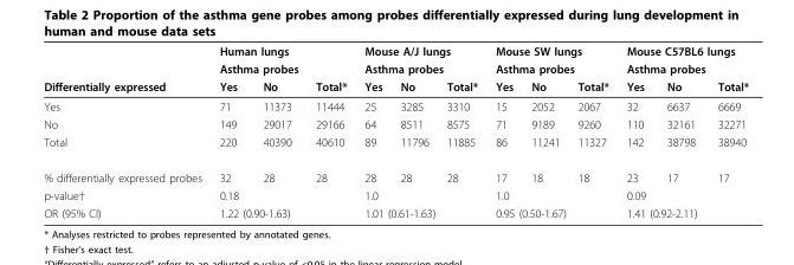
<table><thead><tr><td rowspan="3">Differentially expressed</td><td colspan="2">Human lungs</td><td></td><td rowspan="2" colspan="3">Mouse A/J lungs Asthma probes</td><td rowspan="2" colspan="3">Mouse SW lungs Asthma probes</td><td rowspan="2" colspan="3">Mouse C57BL6 lungs Asthma probes</td></tr><tr><td colspan="3">Asthma probes</td></tr><tr><td>Yes</td><td>No</td><td>Total*</td><td>Yes</td><td>No</td><td>Total*</td><td>Yes</td><td>No</td><td>Total*</td><td>Yes</td><td>No</td><td>Total*</td></tr></thead><tbody><tr><td>Yes</td><td>71</td><td>11373</td><td>11444</td><td>25</td><td>3285</td><td>3310</td><td>15</td><td>2052</td><td>2067</td><td>32</td><td>6637</td><td>6669</td></tr><tr><td>No</td><td>149</td><td>29017</td><td>29166</td><td>64</td><td>8511</td><td>8575</td><td>71</td><td>9189</td><td>9260</td><td>110</td><td>32161</td><td>32271</td></tr><tr><td>Total</td><td>220</td><td>40390</td><td>40610</td><td>89</td><td>11796</td><td>11885</td><td>86</td><td>11241</td><td>11327</td><td>142</td><td>38798</td><td>38940</td></tr><tr><td>% differentially expressed probes</td><td>32</td><td>28</td><td>28</td><td>28</td><td>28</td><td>28</td><td>17</td><td>18</td><td>18</td><td>23</td><td>17</td><td>17</td></tr><tr><td>p-value†</td><td>0.18</td><td></td><td></td><td>1.0</td><td></td><td></td><td>1.0</td><td></td><td></td><td colspan="2">0.09</td><td></td></tr><tr><td>OR (95% CI)</td><td colspan="3">1.22 (0.90-1.63)</td><td colspan="3">1.01 (0.61-1.63)</td><td colspan="3">0.95 (0.50-1.67)</td><td colspan="3">1.41 (0.92-2.11)</td></tr></tbody></table>